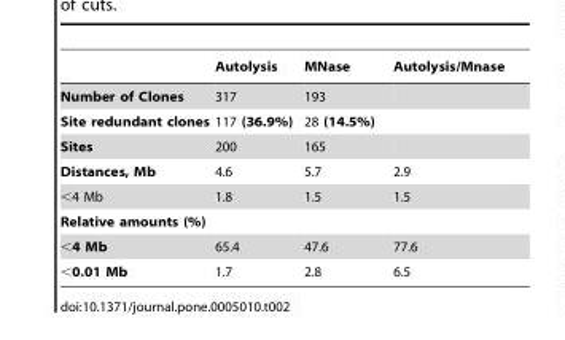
<table><thead><tr><td></td><td>Autolysis</td><td>MNase</td><td>Autolysis/Mnase</td></tr></thead><tbody><tr><td>Number of Clones</td><td>317</td><td>193</td><td></td></tr><tr><td>Site redundant clones</td><td>117 (36.9%)</td><td>28 (14.5%)</td><td></td></tr><tr><td>Sites</td><td>200</td><td>165</td><td></td></tr><tr><td>Distances, Mb</td><td>4.6</td><td>5.7</td><td>2.9</td></tr><tr><td>&lt;4 Mb</td><td>1.8</td><td>1.5</td><td>1.5</td></tr><tr><td colspan="4">Relative amounts (%)</td></tr><tr><td>&lt;4 Mb</td><td>65.4</td><td>47.6</td><td>77.6</td></tr><tr><td>&lt;0.01 Mb</td><td>1.7</td><td>2.8</td><td>6.5</td></tr></tbody></table>